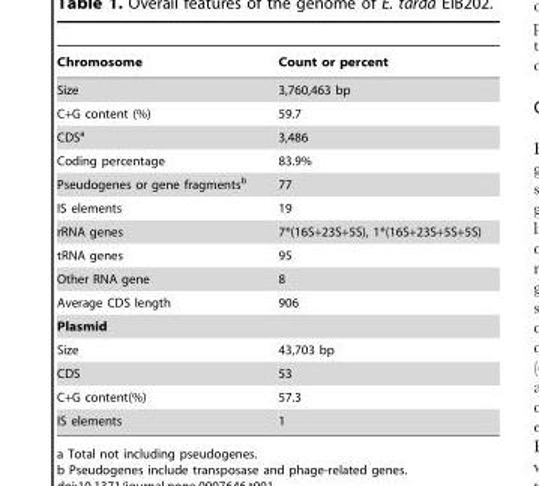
<table><thead><tr><td>Chromosome</td><td>Count or percent</td></tr></thead><tbody><tr><td>Size</td><td>3,760,463 bp</td></tr><tr><td>C+G content (%)</td><td>59.7</td></tr><tr><td>CDS<sup>a</sup></td><td>3,486</td></tr><tr><td>Coding percentage</td><td>83.9%</td></tr><tr><td>Pseudogenes or gene fragments<sup>b</sup></td><td>77</td></tr><tr><td>IS elements</td><td>19</td></tr><tr><td>rRNA genes</td><td>7*(16S+23S+5S), 1*(16S+23S+5S+5S)</td></tr><tr><td>tRNA genes</td><td>95</td></tr><tr><td>Other RNA gene</td><td>8</td></tr><tr><td>Average CDS length</td><td>906</td></tr><tr><td colspan="2">Plasmid</td></tr><tr><td>Size</td><td>43,703 bp</td></tr><tr><td>CDS</td><td>53</td></tr><tr><td>C+G content(%)</td><td>57.3</td></tr><tr><td>IS elements</td><td>1</td></tr></tbody></table>